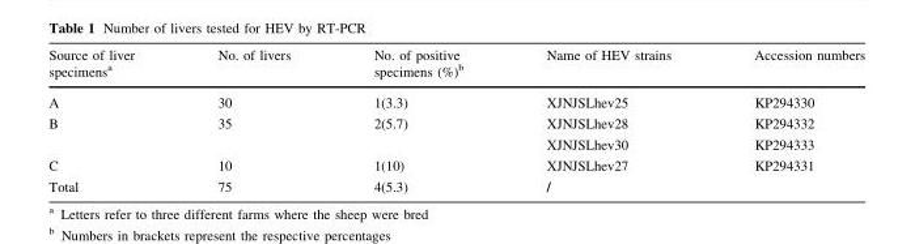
<table><thead><tr><td>Source of liver specimens<sup>a</sup></td><td>No. of livers</td><td>No. of positive specimens (%)<sup>b</sup></td><td>Name of HEV strains</td><td>Accession numbers</td></tr></thead><tbody><tr><td>A</td><td>30</td><td>1(3.3)</td><td>XJNJSLhev25</td><td>KP294330</td></tr><tr><td>B</td><td>35</td><td>2(5.7)</td><td>XJNJSLhev28 XJNJSLhev30</td><td>KP294332 KP294333</td></tr><tr><td>C</td><td>10</td><td>1(10)</td><td>XJNJSLhev27</td><td>KP294331</td></tr><tr><td>Total</td><td>75</td><td>4(5.3)</td><td>/</td><td></td></tr></tbody></table>